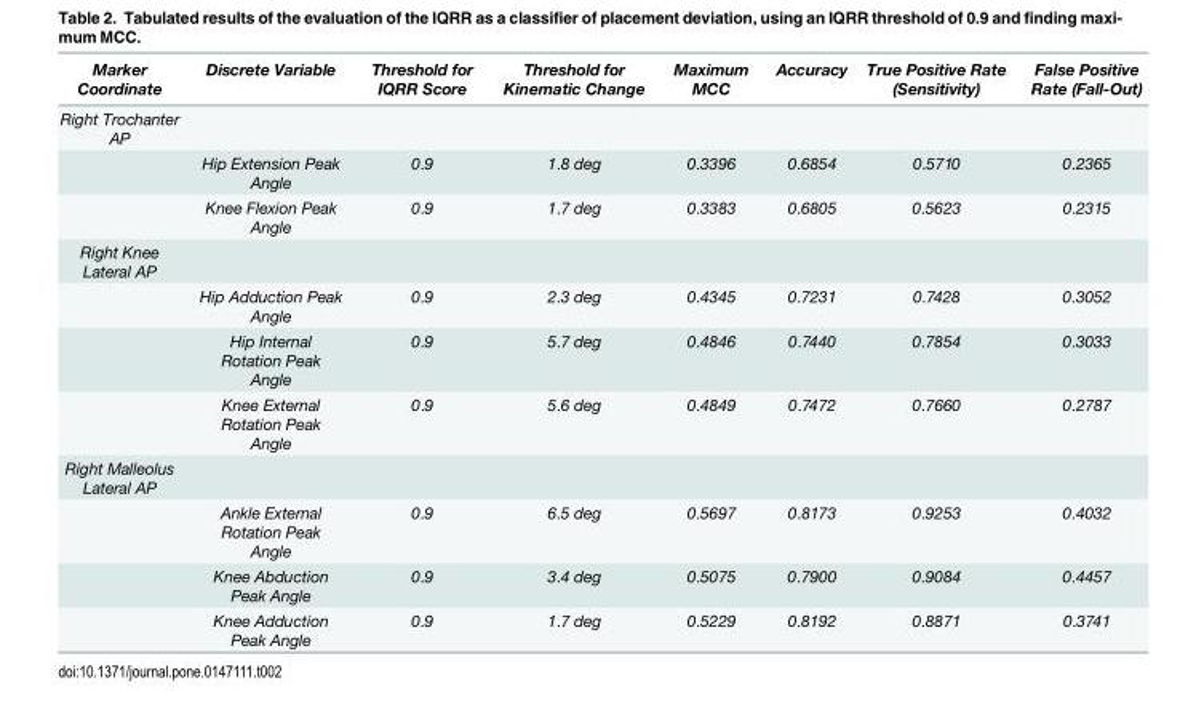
<table><thead><tr><td>Marker Coordinate</td><td>Discrete Variable</td><td>Threshold for IQRR Score</td><td>Threshold for Kinematic Change</td><td>Maximum MCC</td><td>Accuracy</td><td>True Positive Rate (Sensitivity)</td><td>False Positive Rate (Fall-Out)</td></tr></thead><tbody><tr><td colspan="8">Right Trochanter AP</td></tr><tr><td></td><td>Hip Extension Peak Angle</td><td>0.9</td><td>1.8 deg</td><td>0.3396</td><td>0.6854</td><td>0.5710</td><td>0.2365</td></tr><tr><td></td><td>Knee Flexion Peak Angle</td><td>0.9</td><td>1.7 deg</td><td>0.3383</td><td>0.6805</td><td>0.5623</td><td>0.2315</td></tr><tr><td colspan="8">Right Knee Lateral AP</td></tr><tr><td></td><td>Hip Adduction Peak Angle</td><td>0.9</td><td>2.3 deg</td><td>0.4345</td><td>0.7231</td><td>0.7428</td><td>0.3052</td></tr><tr><td></td><td>Hip Internal Rotation Peak Angle</td><td>0.9</td><td>5.7 deg</td><td>0.4846</td><td>0.7440</td><td>0.7854</td><td>0.3033</td></tr><tr><td></td><td>Knee External Rotation Peak Angle</td><td>0.9</td><td>5.6 deg</td><td>0.4849</td><td>0.7472</td><td>0.7660</td><td>0.2787</td></tr><tr><td colspan="8">Right Malleolus Lateral AP</td></tr><tr><td></td><td>Ankle External Rotation Peak Angle</td><td>0.9</td><td>6.5 deg</td><td>0.5697</td><td>0.8173</td><td>0.9253</td><td>0.4032</td></tr><tr><td></td><td>Knee Abduction Peak Angle</td><td>0.9</td><td>3.4 deg</td><td>0.5075</td><td>0.7900</td><td>0.9084</td><td>0.4457</td></tr><tr><td></td><td>Knee Adduction Peak Angle</td><td>0.9</td><td>1.7 deg</td><td>0.5229</td><td>0.8192</td><td>0.8871</td><td>0.3741</td></tr></tbody></table>